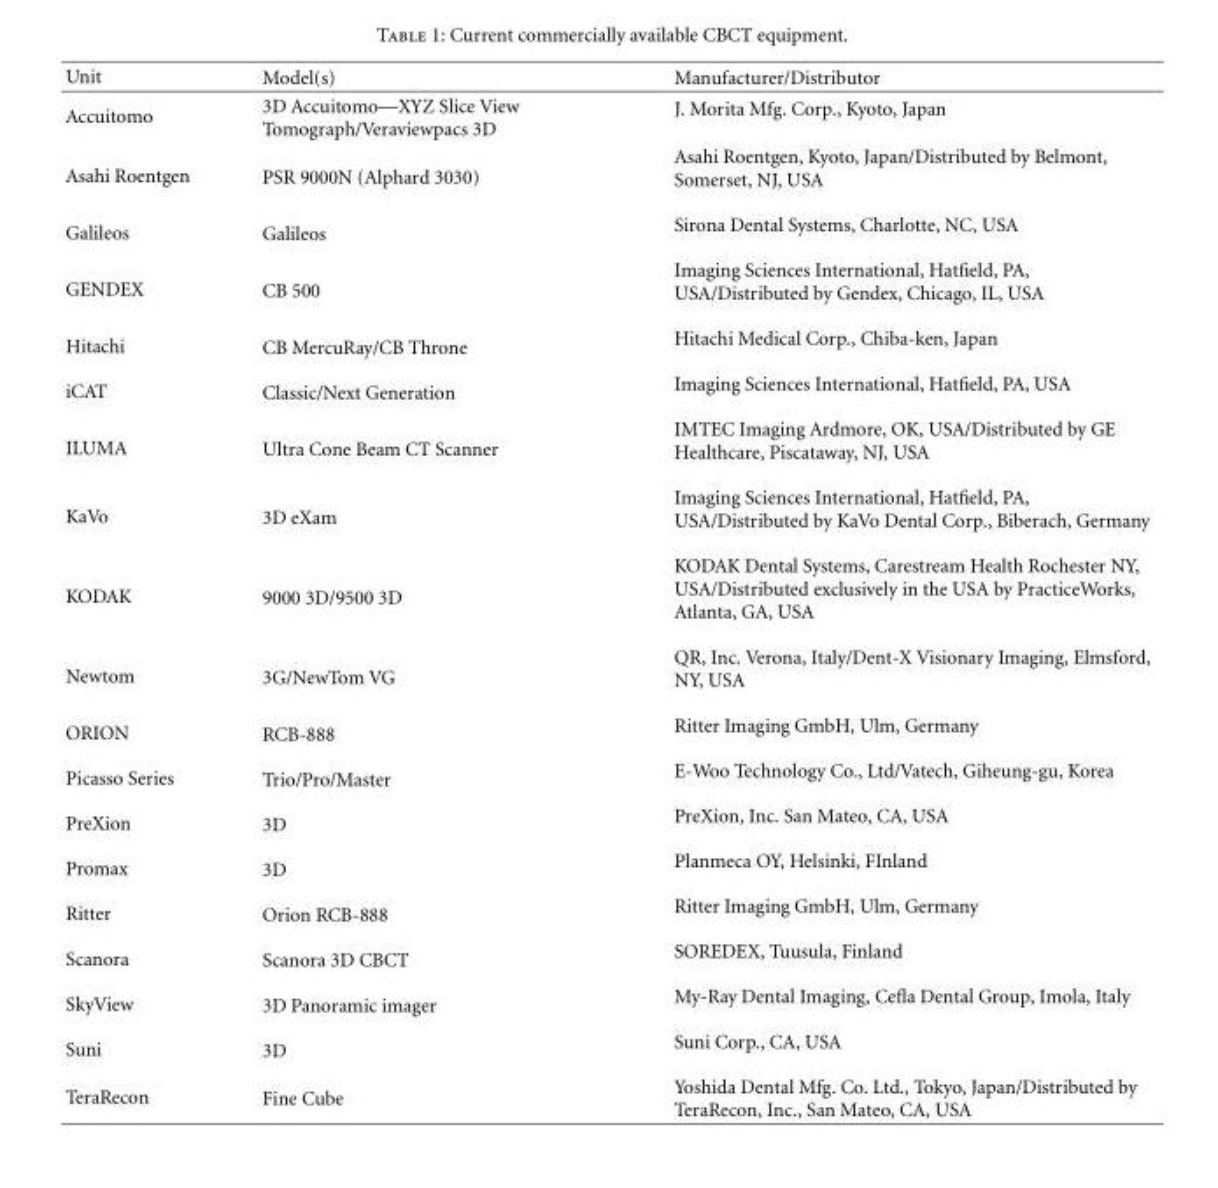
<table><thead><tr><td>Unit</td><td>Model(s)</td><td>Manufacturer/Distributor</td></tr></thead><tbody><tr><td>Accuitomo</td><td>3D Accuitomo—XYZ Slice View Tomograph/Veraviewpacs 3D</td><td>J. Morita Mfg. Corp., Kyoto, Japan</td></tr><tr><td>Asahi Roentgen</td><td>PSR 9000N (Alphard 3030)</td><td>Asahi Roentgen, Kyoto, Japan/Distributed by Belmont, Somerset, NJ, USA</td></tr><tr><td>Galileos</td><td>Galileos</td><td>Sirona Dental Systems, Charlotte, NC, USA</td></tr><tr><td>GENDEX</td><td>CB 500</td><td>Imaging Sciences International, Hatfield, PA, USA/Distributed by Gendex, Chicago, IL, USA</td></tr><tr><td>Hitachi</td><td>CB MercuRay/CB Throne</td><td>Hitachi Medical Corp., Chiba-ken, Japan</td></tr><tr><td>iCAT</td><td>Classic/Next Generation</td><td>Imaging Sciences International, Hatfield, PA, USA</td></tr><tr><td>ILUMA</td><td>Ultra Cone Beam CT Scanner</td><td>IMTEC Imaging Ardmore, OK, USA/Distributed by GE Healthcare, Piscataway, NJ, USA</td></tr><tr><td>KaVo</td><td>3D eXam</td><td>Imaging Sciences International, Hatfield, PA, USA/Distributed by KaVo Dental Corp., Biberach, Germany</td></tr><tr><td>KODAK</td><td>9000 3D/9500 3D</td><td>KODAK Dental Systems, Carestream Health Rochester NY, USA/Distributed exclusively in the USA by PracticeWorks, Atlanta, GA, USA</td></tr><tr><td>Newtom</td><td>3G/NewTom VG</td><td>QR, Inc. Verona, Italy/Dent-X Visionary Imaging, Elmsford, NY, USA</td></tr><tr><td>ORION</td><td>RCB-888</td><td>Ritter Imaging GmbH, Ulm, Germany</td></tr><tr><td>Picasso Series</td><td>Trio/Pro/Master</td><td>E-Woo Technology Co., Ltd/Vatech, Giheung-gu, Korea</td></tr><tr><td>PreXion</td><td>3D</td><td>PreXion, Inc. San Mateo, CA, USA</td></tr><tr><td>Promax</td><td>3D</td><td>Planmeca OY, Helsinki, FInland</td></tr><tr><td>Ritter</td><td>Orion RCB-888</td><td>Ritter Imaging GmbH, Ulm, Germany</td></tr><tr><td>Scanora</td><td>Scanora 3D CBCT</td><td>SOREDEX, Tuusula, Finland</td></tr><tr><td>SkyView</td><td>3D Panoramic imager</td><td>My-Ray Dental Imaging, Cefla Dental Group, Imola, Italy</td></tr><tr><td>Suni</td><td>3D</td><td>Suni Corp., CA, USA</td></tr><tr><td>TeraRecon</td><td>Fine Cube</td><td>Yoshida Dental Mfg. Co. Ltd., Tokyo, Japan/Distributed by TeraRecon, Inc., San Mateo, CA, USA</td></tr></tbody></table>